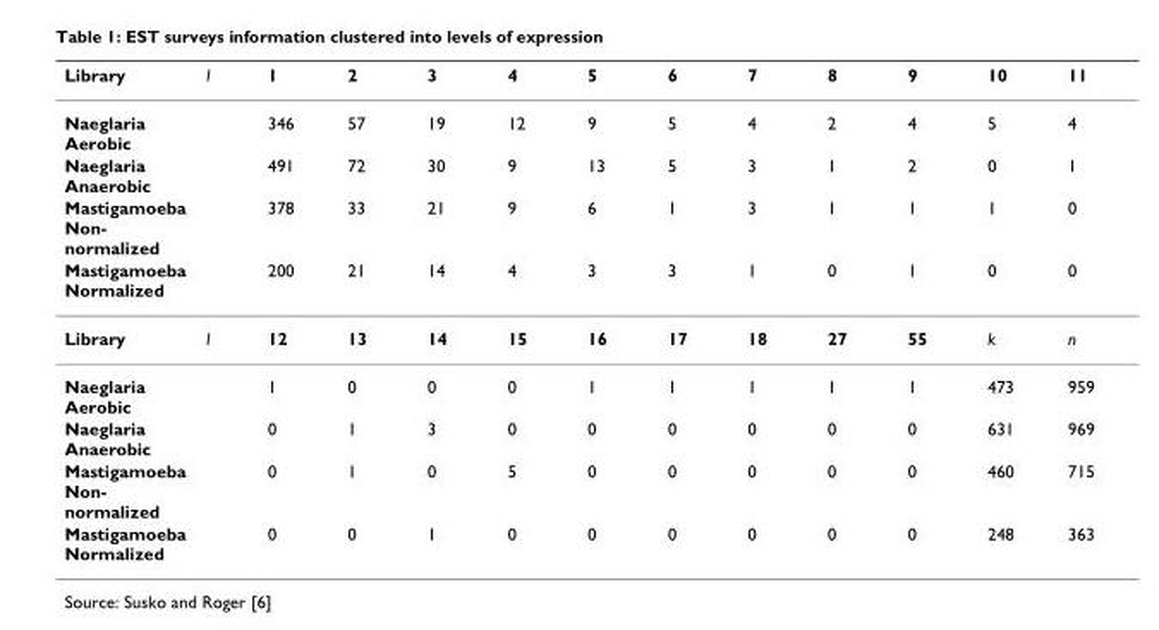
<table><thead><tr><td>Library</td><td>l</td><td>1</td><td>2</td><td>3</td><td>4</td><td>5</td><td>6</td><td>7</td><td>8</td><td>9</td><td>10</td><td>11</td></tr></thead><tbody><tr><td>Naeglaria Aerobic</td><td></td><td>346</td><td>57</td><td>19</td><td>12</td><td>9</td><td>5</td><td>4</td><td>2</td><td>4</td><td>5</td><td>4</td></tr><tr><td>Naeglaria Anaerobic</td><td></td><td>491</td><td>72</td><td>30</td><td>9</td><td>13</td><td>5</td><td>3</td><td>1</td><td>2</td><td>0</td><td>1</td></tr><tr><td>Mastigamoeba Non- normalized</td><td></td><td>378</td><td>33</td><td>21</td><td>9</td><td>6</td><td>1</td><td>3</td><td>1</td><td>1</td><td>1</td><td>0</td></tr><tr><td>Mastigamoeba Normalized</td><td></td><td>200</td><td>21</td><td>14</td><td>4</td><td>3</td><td>3</td><td>1</td><td>0</td><td>1</td><td>0</td><td>0</td></tr><tr><td>Library</td><td>l</td><td>12</td><td>13</td><td>14</td><td>15</td><td>16</td><td>17</td><td>18</td><td>27</td><td>55</td><td>k</td><td>n</td></tr><tr><td>Naeglaria Aerobic</td><td></td><td>1</td><td>0</td><td>0</td><td>0</td><td>1</td><td>1</td><td>1</td><td>1</td><td>1</td><td>473</td><td>959</td></tr><tr><td>Naeglaria Anaerobic</td><td></td><td>0</td><td>1</td><td>3</td><td>0</td><td>0</td><td>0</td><td>0</td><td>0</td><td>0</td><td>631</td><td>969</td></tr><tr><td>Mastigamoeba Non- normalized</td><td></td><td>0</td><td>1</td><td>0</td><td>5</td><td>0</td><td>0</td><td>0</td><td>0</td><td>0</td><td>460</td><td>715</td></tr><tr><td>Mastigamoeba Normalized</td><td></td><td>0</td><td>0</td><td>1</td><td>0</td><td>0</td><td>0</td><td>0</td><td>0</td><td>0</td><td>248</td><td>363</td></tr></tbody></table>